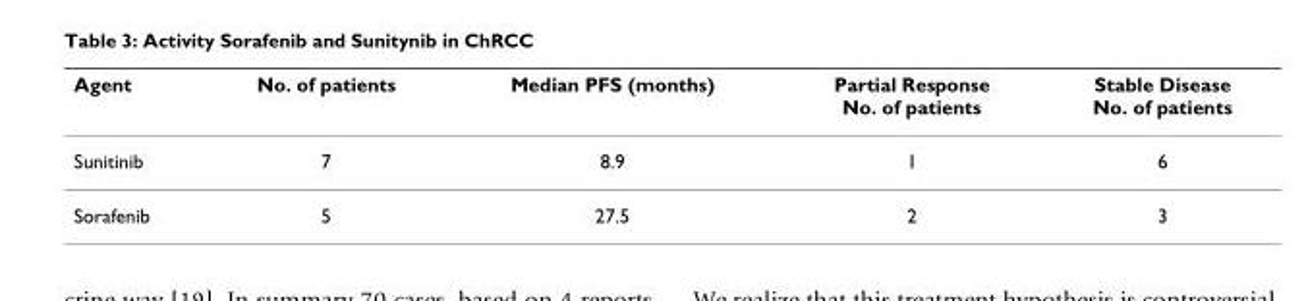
<table><thead><tr><td>Agent</td><td>No. of patients</td><td>Median PFS (months)</td><td>Partial Response No. of patients</td><td>Stable Disease No. of patients</td></tr></thead><tbody><tr><td>Sunitinib</td><td>7</td><td>8.9</td><td>1</td><td>6</td></tr><tr><td>Sorafenib</td><td>5</td><td>27.5</td><td>2</td><td>3</td></tr></tbody></table>